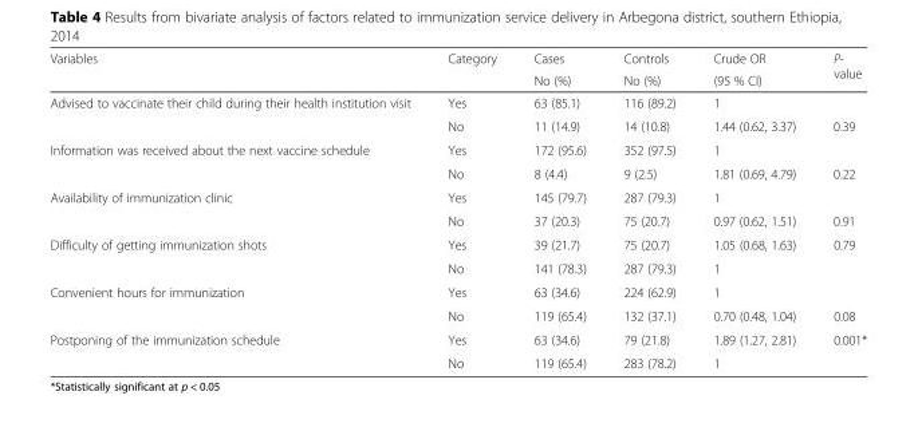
<table><thead><tr><td rowspan="2">Variables</td><td rowspan="2">Category</td><td rowspan="2">Cases No (%)</td><td rowspan="2">Controls No (%)</td><td rowspan="2">Crude OR (95 % CI)</td><td rowspan="2">P- value</td></tr><tr></tr></thead><tbody><tr><td rowspan="2">Advised to vaccinate their child during their health institution visit</td><td>Yes</td><td>63 (85.1)</td><td>116 (89.2)</td><td>1</td><td></td></tr><tr><td>No</td><td>11 (14.9)</td><td>14 (10.8)</td><td>1.44 (0.62, 3.37)</td><td>0.39</td></tr><tr><td rowspan="2">Information was received about the next vaccine schedule</td><td>Yes</td><td>172 (95.6)</td><td>352 (97.5)</td><td>1</td><td></td></tr><tr><td>No</td><td>8 (4.4)</td><td>9 (2.5)</td><td>1.81 (0.69, 4.79)</td><td>0.22</td></tr><tr><td rowspan="2">Availability of immunization clinic</td><td>Yes</td><td>145 (79.7)</td><td>287 (79.3)</td><td>1</td><td></td></tr><tr><td>No</td><td>37 (20.3)</td><td>75 (20.7)</td><td>0.97 (0.62, 1.51)</td><td>0.91</td></tr><tr><td rowspan="2">Difficulty of getting immunization shots</td><td>Yes</td><td>39 (21.7)</td><td>75 (20.7)</td><td>1.05 (0.68, 1.63)</td><td>0.79</td></tr><tr><td>No</td><td>141 (78.3)</td><td>287 (79.3)</td><td>1</td><td></td></tr><tr><td rowspan="2">Convenient hours for immunization</td><td>Yes</td><td>63 (34.6)</td><td>224 (62.9)</td><td>1</td><td></td></tr><tr><td>No</td><td>119 (65.4)</td><td>132 (37.1)</td><td>0.70 (0.48, 1.04)</td><td>0.08</td></tr><tr><td rowspan="2">Postponing of the immunization schedule</td><td>Yes</td><td>63 (34.6)</td><td>79 (21.8)</td><td>1.89 (1.27, 2.81)</td><td>0.001*</td></tr><tr><td>No</td><td>119 (65.4)</td><td>283 (78.2)</td><td>1</td><td></td></tr></tbody></table>